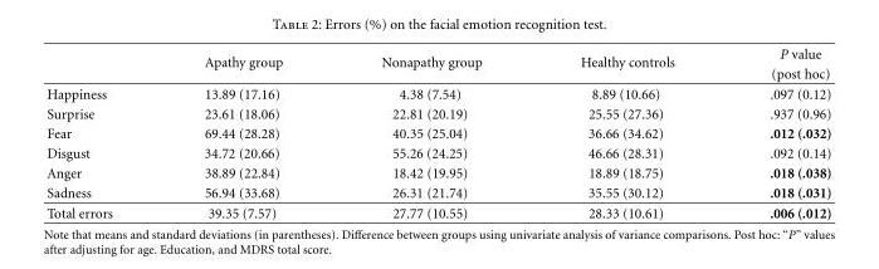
<table><thead><tr><td rowspan="2"></td><td rowspan="2">Apathy group</td><td rowspan="2">Nonapathy group</td><td rowspan="2">Healthy controls</td><td rowspan="2">P value (post hoc)</td></tr><tr></tr></thead><tbody><tr><td>Happiness</td><td>13.89 (17.16)</td><td>4.38 (7.54)</td><td>8.89 (10.66)</td><td>.097 (0.12)</td></tr><tr><td>Surprise</td><td>23.61 (18.06)</td><td>22.81 (20.19)</td><td>25.55 (27.36)</td><td>.937 (0.96)</td></tr><tr><td>Fear</td><td>69.44 (28.28)</td><td>40.35 (25.04)</td><td>36.66 (34.62)</td><td>.012 (.032)</td></tr><tr><td>Disgust</td><td>34.72 (20.66)</td><td>55.26 (24.25)</td><td>46.66 (28.31)</td><td>.092 (0.14)</td></tr><tr><td>Anger</td><td>38.89 (22.84)</td><td>18.42 (19.95)</td><td>18.89 (18.75)</td><td>.018 (.038)</td></tr><tr><td>Sadness</td><td>56.94 (33.68)</td><td>26.31 (21.74)</td><td>35.55 (30.12)</td><td>.018 (.031)</td></tr><tr><td>Total errors</td><td>39.35 (7.57)</td><td>27.77 (10.55)</td><td>28.33 (10.61)</td><td>.006 (.012)</td></tr></tbody></table>